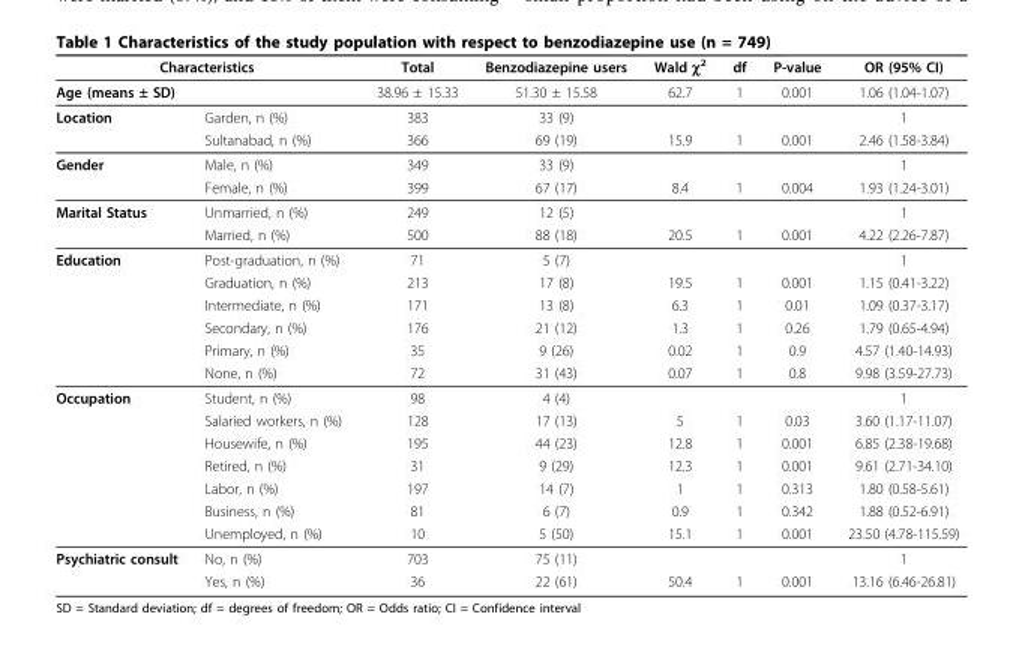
<table><thead><tr><td colspan="2">Characteristics</td><td rowspan="2">Total 38.96 ± 15.33</td><td rowspan="2">Benzodiazepine users 51.30 ± 15.58</td><td rowspan="2">Wald χ2 62.7</td><td rowspan="2">df 1</td><td rowspan="2">P-value 0.001</td><td rowspan="2">OR (95% CI) 1.06 (1.04-1.07)</td></tr><tr><td>Age (means ± SD)</td><td></td></tr></thead><tbody><tr><td rowspan="2">Location</td><td>Garden, n (%)</td><td>383</td><td>33 (9)</td><td></td><td></td><td></td><td>1</td></tr><tr><td>Sultanabad, n (%)</td><td>366</td><td>69 (19)</td><td>15.9</td><td>1</td><td>0.001</td><td>2.46 (1.58-3.84)</td></tr><tr><td rowspan="2">Gender</td><td>Male, n (%)</td><td>349</td><td>33 (9)</td><td></td><td></td><td></td><td>1</td></tr><tr><td>Female, n (%)</td><td>399</td><td>67 (17)</td><td>8.4</td><td>1</td><td>0.004</td><td>1.93 (1.24-3.01)</td></tr><tr><td rowspan="2">Marital Status</td><td>Unmarried, n (%)</td><td>249</td><td>12 (5)</td><td></td><td></td><td></td><td>1</td></tr><tr><td>Married, n (%)</td><td>500</td><td>88 (18)</td><td>20.5</td><td>1</td><td>0.001</td><td>4.22 (2.26-7.87)</td></tr><tr><td rowspan="6">Education</td><td>Post-graduation, n (%)</td><td>71</td><td>5 (7)</td><td></td><td></td><td></td><td>1</td></tr><tr><td>Graduation, n (%)</td><td>213</td><td>17 (8)</td><td>19.5</td><td>1</td><td>0.001</td><td>1.15 (0.41-3.22)</td></tr><tr><td>Intermediate, n (%)</td><td>171</td><td>13 (8)</td><td>6.3</td><td>1</td><td>0.01</td><td>1.09 (0.37-3.17)</td></tr><tr><td>Secondary, n (%)</td><td>176</td><td>21 (12)</td><td>1.3</td><td>1</td><td>0.26</td><td>1.79 (0.65-4.94)</td></tr><tr><td>Primary, n (%)</td><td>35</td><td>9 (26)</td><td>0.02</td><td>1</td><td>0.9</td><td>4.57 (1.40-14.93)</td></tr><tr><td>None, n (%)</td><td>72</td><td>31 (43)</td><td>0.07</td><td>1</td><td>0.8</td><td>9.98 (3.59-27.73)</td></tr><tr><td rowspan="7">Occupation</td><td>Student, n (%)</td><td>98</td><td>4 (4)</td><td></td><td></td><td></td><td>1</td></tr><tr><td>Salaried workers, n (%)</td><td>128</td><td>17 (13)</td><td>5</td><td>1</td><td>0.03</td><td>3.60 (1.17-11.07)</td></tr><tr><td>Housewife, n (%)</td><td>195</td><td>44 (23)</td><td>12.8</td><td>1</td><td>0.001</td><td>6.85 (2.38-19.68)</td></tr><tr><td>Retired, n (%)</td><td>31</td><td>9 (29)</td><td>12.3</td><td>1</td><td>0.001</td><td>9.61 (2.71-34.10)</td></tr><tr><td>Labor, n (%)</td><td>197</td><td>14 (7)</td><td>1</td><td>1</td><td>0.313</td><td>1.80 (0.58-5.61)</td></tr><tr><td>Business, n (%)</td><td>81</td><td>6 (7)</td><td>0.9</td><td>1</td><td>0.342</td><td>1.88 (0.52-6.91)</td></tr><tr><td>Unemployed, n (%)</td><td>10</td><td>5 (50)</td><td>15.1</td><td>1</td><td>0.001</td><td>23.50 (4.78-115.59)</td></tr><tr><td rowspan="2">Psychiatric consult</td><td>No, n (%)</td><td>703</td><td>75 (11)</td><td></td><td></td><td></td><td>1</td></tr><tr><td>Yes, n (%)</td><td>36</td><td>22 (61)</td><td>50.4</td><td>1</td><td>0.001</td><td>13.16 (6.46-26.81)</td></tr></tbody></table>